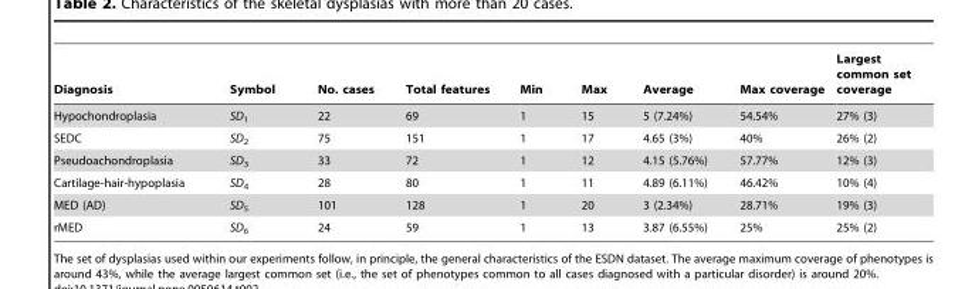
<table><thead><tr><td>Diagnosis</td><td>Symbol</td><td>No. cases</td><td>Total features</td><td>Min</td><td>Max</td><td>Average</td><td>Max coverage</td><td>Largest common set coverage</td></tr></thead><tbody><tr><td>Hypochondroplasia</td><td>SD<sub>1</sub></td><td>22</td><td>69</td><td>1</td><td>15</td><td>5 (7.24%)</td><td>54.54%</td><td>27% (3)</td></tr><tr><td>SEDC</td><td>SD<sub>2</sub></td><td>75</td><td>151</td><td>1</td><td>17</td><td>4.65 (3%)</td><td>40%</td><td>26% (2)</td></tr><tr><td>Pseudoachondroplasia</td><td>SD<sub>3</sub></td><td>33</td><td>72</td><td>1</td><td>12</td><td>4.15 (5.76%)</td><td>57.77%</td><td>12% (3)</td></tr><tr><td>Cartilage-hair-hypoplasia</td><td>SD<sub>4</sub></td><td>28</td><td>80</td><td>1</td><td>11</td><td>4.89 (6.11%)</td><td>46.42%</td><td>10% (4)</td></tr><tr><td>MED (AD)</td><td>SD<sub>5</sub></td><td>101</td><td>128</td><td>1</td><td>20</td><td>3 (2.34%)</td><td>28.71%</td><td>19% (3)</td></tr><tr><td>rMED</td><td>SD<sub>6</sub></td><td>24</td><td>59</td><td>1</td><td>13</td><td>3.87 (6.55%)</td><td>25%</td><td>25% (2)</td></tr></tbody></table>